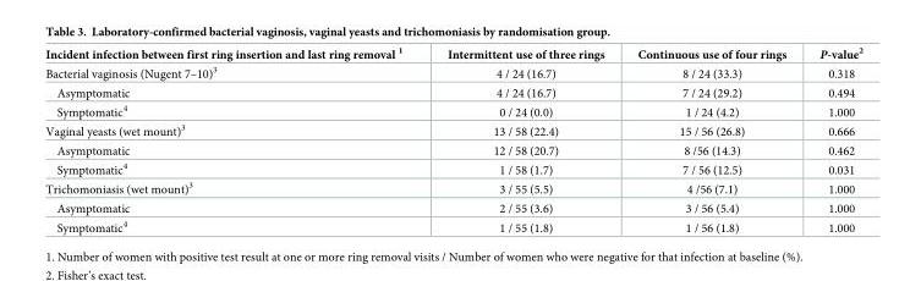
<table><thead><tr><td>Incident infection between first ring insertion and last ring removal <sup>1</sup></td><td>Intermittent use of three rings</td><td>Continuous use of four rings</td><td>P-value<sup>2</sup></td></tr></thead><tbody><tr><td>Bacterial vaginosis (Nugent 7–10)<sup>3</sup></td><td>4 / 24 (16.7)</td><td>8 / 24 (33.3)</td><td>0.318</td></tr><tr><td>Asymptomatic</td><td>4 / 24 (16.7)</td><td>7 / 24 (29.2)</td><td>0.494</td></tr><tr><td>Symptomatic<sup>4</sup></td><td>0 / 24 (0.0)</td><td>1 / 24 (4.2)</td><td>1.000</td></tr><tr><td>Vaginal yeasts (wet mount)<sup>3</sup></td><td>13 / 58 (22.4)</td><td>15 / 56 (26.8)</td><td>0.666</td></tr><tr><td>Asymptomatic</td><td>12 / 58 (20.7)</td><td>8 /56 (14.3)</td><td>0.462</td></tr><tr><td>Symptomatic<sup>4</sup></td><td>1 / 58 (1.7)</td><td>7 / 56 (12.5)</td><td>0.031</td></tr><tr><td>Trichomoniasis (wet mount)<sup>3</sup></td><td>3 / 55 (5.5)</td><td>4 /56 (7.1)</td><td>1.000</td></tr><tr><td>Asymptomatic</td><td>2 / 55 (3.6)</td><td>3 / 56 (5.4)</td><td>1.000</td></tr><tr><td>Symptomatic<sup>4</sup></td><td>1 / 55 (1.8)</td><td>1 / 56 (1.8)</td><td>1.000</td></tr></tbody></table>